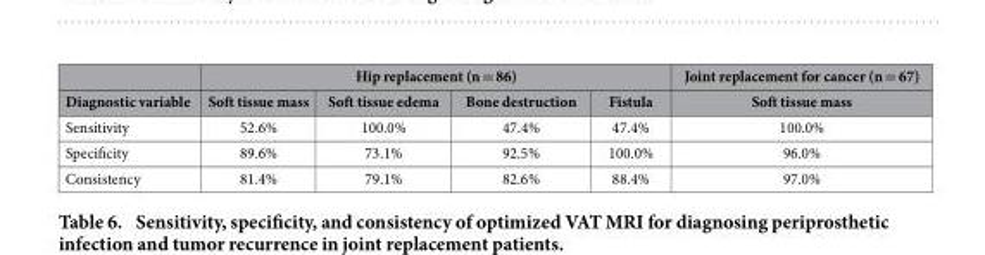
<table><thead><tr><td rowspan="2">Diagnostic variable</td><td colspan="4">Hip replacement (n = 86)</td><td rowspan="2">Joint replacement for cancer (n = 67) Soft tissue mass</td></tr><tr><td>Soft tissue mass</td><td>Soft tissue edema</td><td>Bone destruction</td><td>Fistula</td></tr></thead><tbody><tr><td>Sensitivity</td><td>52.6%</td><td>100.0%</td><td>47.4%</td><td>47.4%</td><td>100.0%</td></tr><tr><td>Specificity</td><td>89.6%</td><td>73.1%</td><td>92.5%</td><td>100.0%</td><td>96.0%</td></tr><tr><td>Consistency</td><td>81.4%</td><td>79.1%</td><td>82.6%</td><td>88.4%</td><td>97.0%</td></tr></tbody></table>